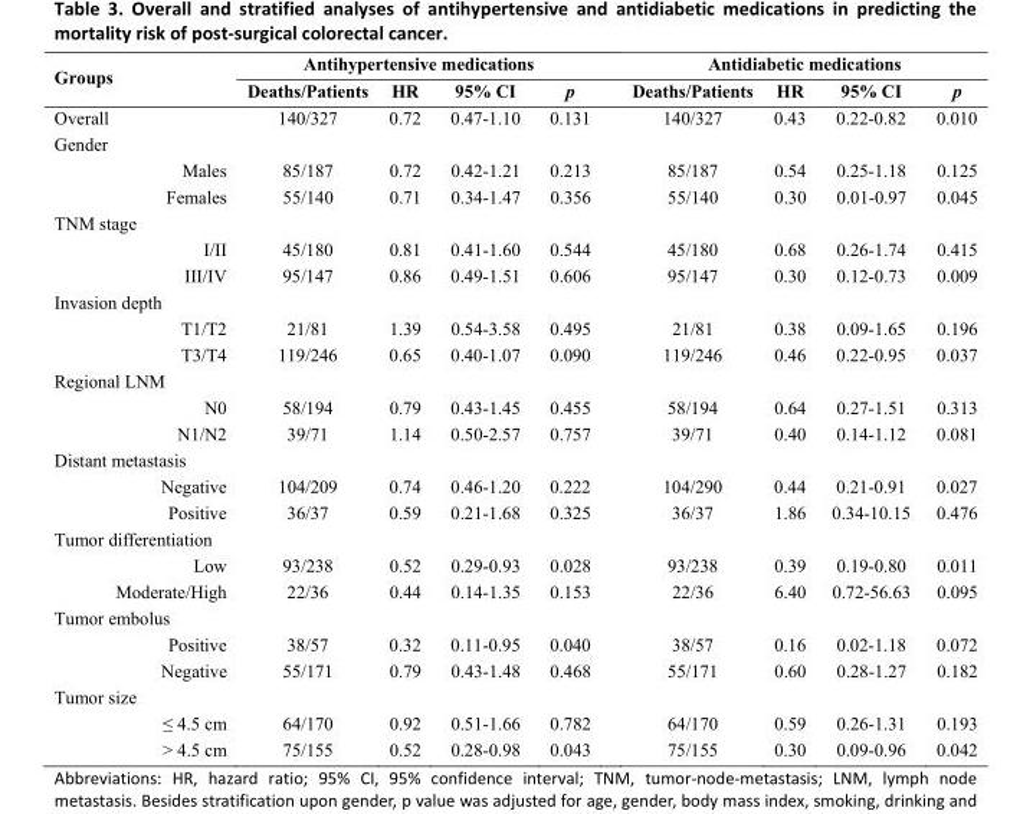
<table><tbody><tr><td rowspan="2">Groups</td><td colspan="4">Antihypertensive medications</td><td colspan="4">Antidiabetic medications</td></tr><tr><td>Deaths/Patients</td><td>HR</td><td>95% CI</td><td>p</td><td>Deaths/Patients</td><td>HR</td><td>95% CI</td><td>p</td></tr><tr><td>Overall</td><td>140/327</td><td>0.72</td><td>0.47-1.10</td><td>0.131</td><td>140/327</td><td>0.43</td><td>0.22-0.82</td><td>0.010</td></tr><tr><td colspan="9">Gender</td></tr><tr><td>Males</td><td>85/187</td><td>0.72</td><td>0.42-1.21</td><td>0.213</td><td>85/187</td><td>0.54</td><td>0.25-1.18</td><td>0.125</td></tr><tr><td>Females</td><td>55/140</td><td>0.71</td><td>0.34-1.47</td><td>0.356</td><td>55/140</td><td>0.30</td><td>0.01-0.97</td><td>0.045</td></tr><tr><td colspan="9">TNM stage</td></tr><tr><td>I/II</td><td>45/180</td><td>0.81</td><td>0.41-1.60</td><td>0.544</td><td>45/180</td><td>0.68</td><td>0.26-1.74</td><td>0.415</td></tr><tr><td>III/IV</td><td>95/147</td><td>0.86</td><td>0.49-1.51</td><td>0.606</td><td>95/147</td><td>0.30</td><td>0.12-0.73</td><td>0.009</td></tr><tr><td colspan="9">Invasion depth</td></tr><tr><td>T1/T2</td><td>21/81</td><td>1.39</td><td>0.54-3.58</td><td>0.495</td><td>21/81</td><td>0.38</td><td>0.09-1.65</td><td>0.196</td></tr><tr><td>T3/T4</td><td>119/246</td><td>0.65</td><td>0.40-1.07</td><td>0.090</td><td>119/246</td><td>0.46</td><td>0.22-0.95</td><td>0.037</td></tr><tr><td colspan="9">Regional LNM</td></tr><tr><td>N0</td><td>58/194</td><td>0.79</td><td>0.43-1.45</td><td>0.455</td><td>58/194</td><td>0.64</td><td>0.27-1.51</td><td>0.313</td></tr><tr><td>N1/N2</td><td>39/71</td><td>1.14</td><td>0.50-2.57</td><td>0.757</td><td>39/71</td><td>0.40</td><td>0.14-1.12</td><td>0.081</td></tr><tr><td colspan="9">Distant metastasis</td></tr><tr><td>Negative</td><td>104/209</td><td>0.74</td><td>0.46-1.20</td><td>0.222</td><td>104/290</td><td>0.44</td><td>0.21-0.91</td><td>0.027</td></tr><tr><td>Positive</td><td>36/37</td><td>0.59</td><td>0.21-1.68</td><td>0.325</td><td>36/37</td><td>1.86</td><td>0.34-10.15</td><td>0.476</td></tr><tr><td colspan="9">Tumor differentiation</td></tr><tr><td>Low</td><td>93/238</td><td>0.52</td><td>0.29-0.93</td><td>0.028</td><td>93/238</td><td>0.39</td><td>0.19-0.80</td><td>0.011</td></tr><tr><td>Moderate/High</td><td>22/36</td><td>0.44</td><td>0.14-1.35</td><td>0.153</td><td>22/36</td><td>6.40</td><td>0.72-56.63</td><td>0.095</td></tr><tr><td colspan="9">Tumor embolus</td></tr><tr><td>Positive</td><td>38/57</td><td>0.32</td><td>0.11-0.95</td><td>0.040</td><td>38/57</td><td>0.16</td><td>0.02-1.18</td><td>0.072</td></tr><tr><td>Negative</td><td>55/171</td><td>0.79</td><td>0.43-1.48</td><td>0.468</td><td>55/171</td><td>0.60</td><td>0.28-1.27</td><td>0.182</td></tr><tr><td colspan="9">Tumor size</td></tr><tr><td>≤ 4.5 cm</td><td>64/170</td><td>0.92</td><td>0.51-1.66</td><td>0.782</td><td>64/170</td><td>0.59</td><td>0.26-1.31</td><td>0.193</td></tr><tr><td>&gt; 4.5 cm</td><td>75/155</td><td>0.52</td><td>0.28-0.98</td><td>0.043</td><td>75/155</td><td>0.30</td><td>0.09-0.96</td><td>0.042</td></tr></tbody></table>